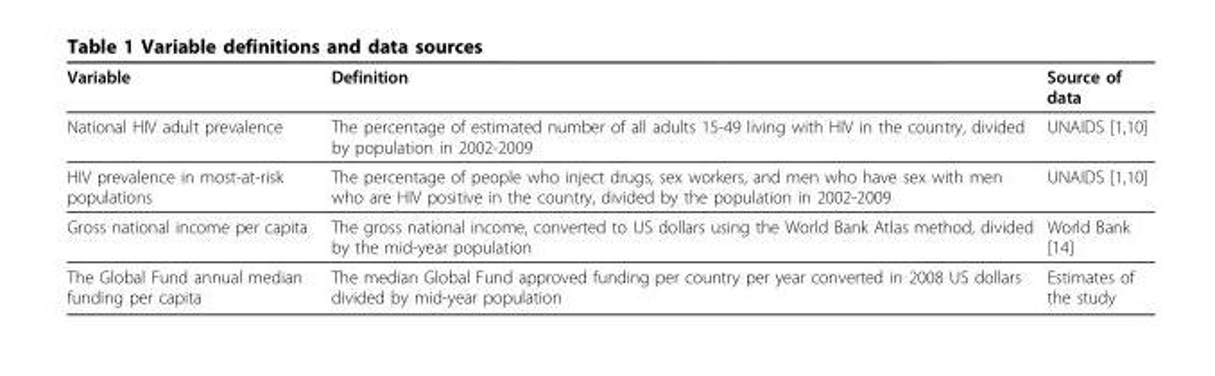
<table><thead><tr><td>Variable</td><td>Definition</td><td>Source of data</td></tr></thead><tbody><tr><td>National HIV adult prevalence</td><td>The percentage of estimated number of all adults 15-49 living with HIV in the country, divided by population in 2002-2009</td><td>UNAIDS [1,10]</td></tr><tr><td>HIV prevalence in most-at-risk populations</td><td>The percentage of people who inject drugs, sex workers, and men who have sex with men who are HIV positive in the country, divided by the population in 2002-2009</td><td>UNAIDS [1,10]</td></tr><tr><td>Gross national income per capita</td><td>The gross national income, converted to US dollars using the World Bank Atlas method, divided by the mid-year population</td><td>World Bank [14]</td></tr><tr><td>The Global Fund annual median funding per capita</td><td>The median Global Fund approved funding per country per year converted in 2008 US dollars divided by mid-year population</td><td>Estimates of the study</td></tr></tbody></table>